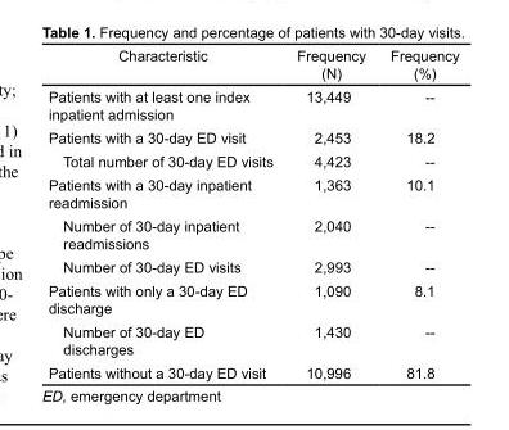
<table><thead><tr><td>Characteristic</td><td>Frequency (N)</td><td>Frequency (%)</td></tr></thead><tbody><tr><td>Patients with at least one index inpatient admission</td><td>13,449</td><td>--</td></tr><tr><td>Patients with a 30-day ED visit</td><td>2,453</td><td>18.2</td></tr><tr><td>Total number of 30-day ED visits</td><td>4,423</td><td>--</td></tr><tr><td>Patients with a 30-day inpatient readmission</td><td>1,363</td><td>10.1</td></tr><tr><td>Number of 30-day inpatient readmissions</td><td>2,040</td><td>--</td></tr><tr><td>Number of 30-day ED visits</td><td>2,993</td><td>--</td></tr><tr><td>Patients with only a 30-day ED discharge</td><td>1,090</td><td>8.1</td></tr><tr><td>Number of 30-day ED discharges</td><td>1,430</td><td>--</td></tr><tr><td>Patients without a 30-day ED visit</td><td>10,996</td><td>81.8</td></tr></tbody></table>